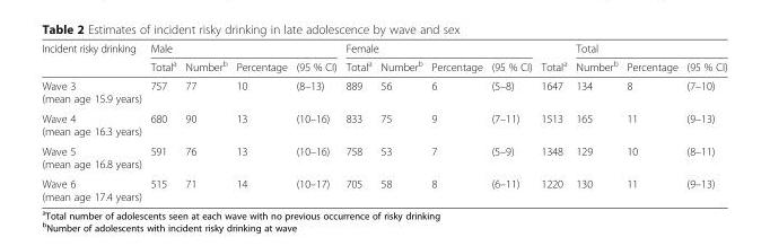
<table><thead><tr><td rowspan="2">Incident risky drinking</td><td colspan="4">Male</td><td colspan="4">Female</td><td rowspan="2">Total<sup>a</sup></td><td colspan="3">Total</td></tr><tr><td>Total<sup>a</sup></td><td>Number<sup>b</sup></td><td>Percentage</td><td>(95 % CI)</td><td>Total<sup>a</sup></td><td>Number<sup>b</sup></td><td>Percentage</td><td>(95 % CI)</td><td>Number<sup>b</sup></td><td>Percentage</td><td>(95 % CI)</td></tr></thead><tbody><tr><td>Wave 3 (mean age 15.9 years)</td><td>757</td><td>77</td><td>10</td><td>(8–13)</td><td>889</td><td>56</td><td>6</td><td>(5–8)</td><td>1647</td><td>134</td><td>8</td><td>(7–10)</td></tr><tr><td>Wave 4 (mean age 16.3 years)</td><td>680</td><td>90</td><td>13</td><td>(10–16)</td><td>833</td><td>75</td><td>9</td><td>(7–11)</td><td>1513</td><td>165</td><td>11</td><td>(9–13)</td></tr><tr><td>Wave 5 (mean age 16.8 years)</td><td>591</td><td>76</td><td>13</td><td>(10–16)</td><td>758</td><td>53</td><td>7</td><td>(5–9)</td><td>1348</td><td>129</td><td>10</td><td>(8–11)</td></tr><tr><td>Wave 6 (mean age 17.4 years)</td><td>515</td><td>71</td><td>14</td><td>(10–17)</td><td>705</td><td>58</td><td>8</td><td>(6–11)</td><td>1220</td><td>130</td><td>11</td><td>(9–13)</td></tr></tbody></table>